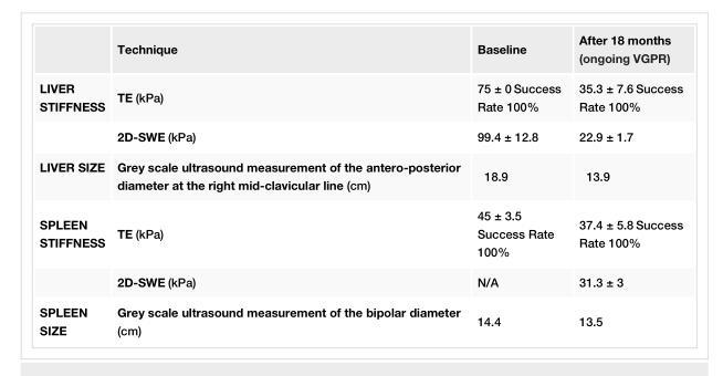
<table><thead><tr><td></td><td>Technique</td><td>Baseline</td><td>After 18 months (ongoing VGPR)</td></tr></thead><tbody><tr><td rowspan="2">LIVER STIFFNESS</td><td>TE (kPa)</td><td>75 ± 0 Success Rate 100%</td><td>35.3 ± 7.6 Success Rate 100%</td></tr><tr><td>2D-SWE (kPa)</td><td>99.4 ± 12.8</td><td>22.9 ± 1.7</td></tr><tr><td>LIVER SIZE</td><td>Grey scale ultrasound measurement of the antero-posterior diameter at the right mid-clavicular line (cm)</td><td>18.9</td><td>13.9</td></tr><tr><td rowspan="2">SPLEEN STIFFNESS</td><td>TE (kPa)</td><td>45 ± 3.5 Success Rate 100%</td><td>37.4 ± 5.8 Success Rate 100%</td></tr><tr><td>2D-SWE (kPa)</td><td>N/A</td><td>31.3 ± 3</td></tr><tr><td>SPLEEN SIZE</td><td>Grey scale ultrasound measurement of the bipolar diameter (cm)</td><td>14.4</td><td>13.5</td></tr></tbody></table>